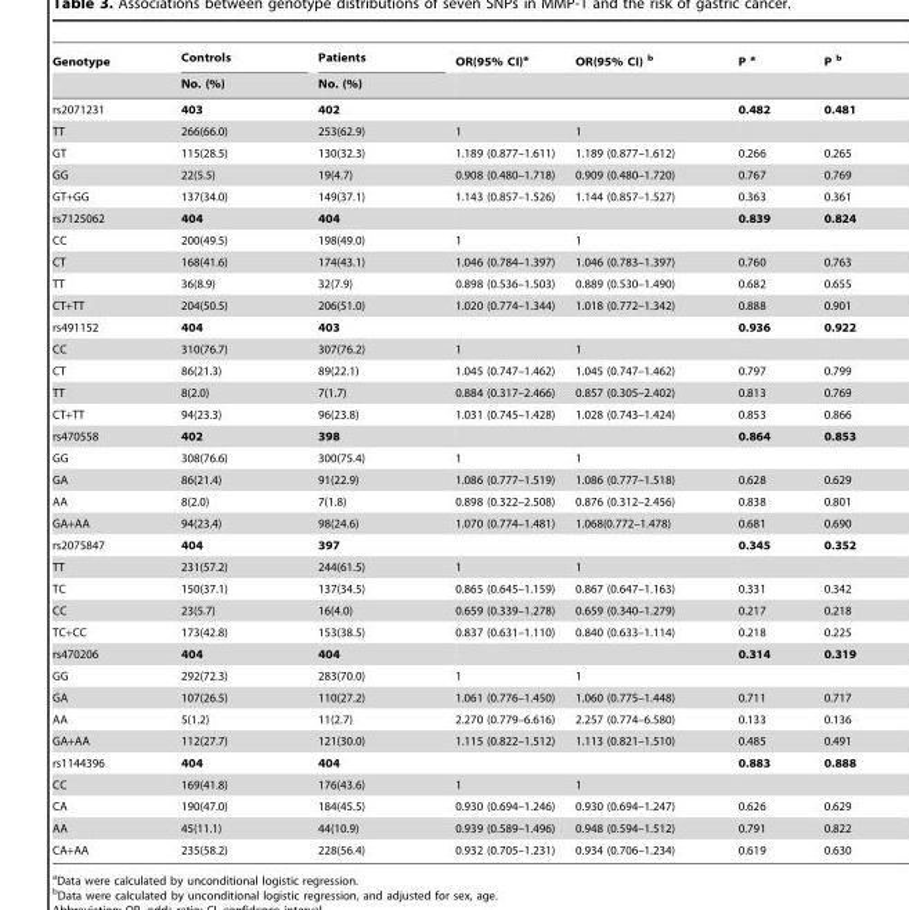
<table><thead><tr><td rowspan="2">Genotype</td><td rowspan="2">Controls No. (%)</td><td rowspan="2">Patients No. (%)</td><td rowspan="2">OR(95% CI)<sup>a</sup></td><td rowspan="2">OR(95% CI) b</td><td rowspan="2">P a</td><td rowspan="2">P b</td></tr><tr></tr></thead><tbody><tr><td>rs2071231</td><td>403</td><td>402</td><td></td><td></td><td>0.482</td><td>0.481</td></tr><tr><td>TT</td><td>266(66.0)</td><td>253(62.9)</td><td>1</td><td>1</td><td></td><td></td></tr><tr><td>GT</td><td>115(28.5)</td><td>130(32.3)</td><td>1.189 (0.877–1.611)</td><td>1.189 (0.877–1.612)</td><td>0.266</td><td>0.265</td></tr><tr><td>GG</td><td>22(5.5)</td><td>19(4.7)</td><td>0.908 (0.480–1.718)</td><td>0.909 (0.480–1.720)</td><td>0.767</td><td>0.769</td></tr><tr><td>GT+GG</td><td>137(34.0)</td><td>149(37.1)</td><td>1.143 (0.857–1.526)</td><td>1.144 (0.857–1.527)</td><td>0.363</td><td>0.361</td></tr><tr><td>rs7125062</td><td>404</td><td>404</td><td></td><td></td><td>0.839</td><td>0.824</td></tr><tr><td>CC</td><td>200(49.5)</td><td>198(49.0)</td><td>1</td><td>1</td><td></td><td></td></tr><tr><td>CT</td><td>168(41.6)</td><td>174(43.1)</td><td>1.046 (0.784–1.397)</td><td>1.046 (0.783–1.397)</td><td>0.760</td><td>0.763</td></tr><tr><td>TT</td><td>36(8.9)</td><td>32(7.9)</td><td>0.898 (0.536–1.503)</td><td>0.889 (0.530–1.490)</td><td>0.682</td><td>0.655</td></tr><tr><td>CT+TT</td><td>204(50.5)</td><td>206(51.0)</td><td>1.020 (0.774–1.344)</td><td>1.018 (0.772–1.342)</td><td>0.888</td><td>0.901</td></tr><tr><td>rs491152</td><td>404</td><td>403</td><td></td><td></td><td>0.936</td><td>0.922</td></tr><tr><td>CC</td><td>310(76.7)</td><td>307(76.2)</td><td>1</td><td>1</td><td></td><td></td></tr><tr><td>CT</td><td>86(21.3)</td><td>89(22.1)</td><td>1.045 (0.747–1.462)</td><td>1.045 (0.747–1.462)</td><td>0.797</td><td>0.799</td></tr><tr><td>TT</td><td>8(2.0)</td><td>7(1.7)</td><td>0.884 (0.317–2.466)</td><td>0.857 (0.305–2.402)</td><td>0.813</td><td>0.769</td></tr><tr><td>CT+TT</td><td>94(23.3)</td><td>96(23.8)</td><td>1.031 (0.745–1.428)</td><td>1.028 (0.743–1.424)</td><td>0.853</td><td>0.866</td></tr><tr><td>rs470558</td><td>402</td><td>398</td><td></td><td></td><td>0.864</td><td>0.853</td></tr><tr><td>GG</td><td>308(76.6)</td><td>300(75.4)</td><td>1</td><td>1</td><td></td><td></td></tr><tr><td>GA</td><td>86(21.4)</td><td>91(22.9)</td><td>1.086 (0.777–1.519)</td><td>1.086 (0.777–1.518)</td><td>0.628</td><td>0.629</td></tr><tr><td>AA</td><td>8(2.0)</td><td>7(1.8)</td><td>0.898 (0.322–2.508)</td><td>0.876 (0.312–2.456)</td><td>0.838</td><td>0.801</td></tr><tr><td>GA+AA</td><td>94(23.4)</td><td>98(24.6)</td><td>1.070 (0.774–1.481)</td><td>1.068(0.772–1.478)</td><td>0.681</td><td>0.690</td></tr><tr><td>rs2075847</td><td>404</td><td>397</td><td></td><td></td><td>0.345</td><td>0.352</td></tr><tr><td>TT</td><td>231(57.2)</td><td>244(61.5)</td><td>1</td><td>1</td><td></td><td></td></tr><tr><td>TC</td><td>150(37.1)</td><td>137(34.5)</td><td>0.865 (0.645–1.159)</td><td>0.867 (0.647–1.163)</td><td>0.331</td><td>0.342</td></tr><tr><td>CC</td><td>23(5.7)</td><td>16(4.0)</td><td>0.659 (0.339–1.278)</td><td>0.659 (0.340–1.279)</td><td>0.217</td><td>0.218</td></tr><tr><td>TC+CC</td><td>173(42.8)</td><td>153(38.5)</td><td>0.837 (0.631–1.110)</td><td>0.840 (0.633–1.114)</td><td>0.218</td><td>0.225</td></tr><tr><td>rs470206</td><td>404</td><td>404</td><td></td><td></td><td>0.314</td><td>0.319</td></tr><tr><td>GG</td><td>292(72.3)</td><td>283(70.0)</td><td>1</td><td>1</td><td></td><td></td></tr><tr><td>GA</td><td>107(26.5)</td><td>110(27.2)</td><td>1.061 (0.776–1.450)</td><td>1.060 (0.775–1.448)</td><td>0.711</td><td>0.717</td></tr><tr><td>AA</td><td>5(1.2)</td><td>11(2.7)</td><td>2.270 (0.779–6.616)</td><td>2.257 (0.774–6.580)</td><td>0.133</td><td>0.136</td></tr><tr><td>GA+AA</td><td>112(27.7)</td><td>121(30.0)</td><td>1.115 (0.822–1.512)</td><td>1.113 (0.821–1.510)</td><td>0.485</td><td>0.491</td></tr><tr><td>rs1144396</td><td>404</td><td>404</td><td></td><td></td><td>0.883</td><td>0.888</td></tr><tr><td>CC</td><td>169(41.8)</td><td>176(43.6)</td><td>1</td><td>1</td><td></td><td></td></tr><tr><td>CA</td><td>190(47.0)</td><td>184(45.5)</td><td>0.930 (0.694–1.246)</td><td>0.930 (0.694–1.247)</td><td>0.626</td><td>0.629</td></tr><tr><td>AA</td><td>45(11.1)</td><td>44(10.9)</td><td>0.939 (0.589–1.496)</td><td>0.948 (0.594–1.512)</td><td>0.791</td><td>0.822</td></tr><tr><td>CA+AA</td><td>235(58.2)</td><td>228(56.4)</td><td>0.932 (0.705–1.231)</td><td>0.934 (0.706–1.234)</td><td>0.619</td><td>0.630</td></tr></tbody></table>